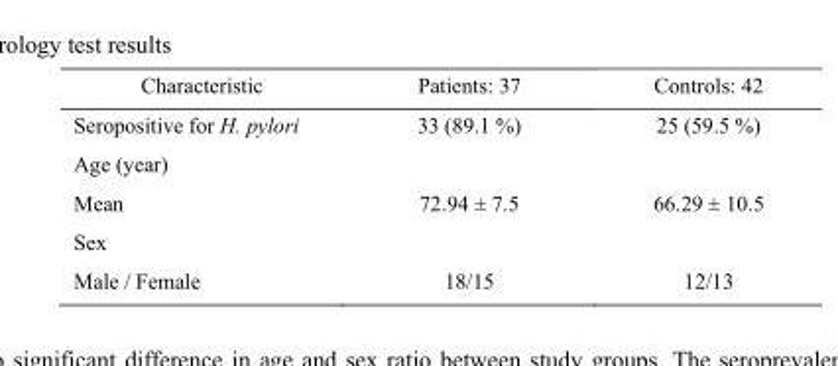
<table><thead><tr><td>Characteristic</td><td>Patients: 37</td><td>Controls: 42</td></tr></thead><tbody><tr><td>Seropositive for H. pylori</td><td>33 (89.1 %)</td><td>25 (59.5 %)</td></tr><tr><td colspan="3">Age (year)</td></tr><tr><td>Mean</td><td>72.94 ± 7.5</td><td>66.29 ± 10.5</td></tr><tr><td colspan="3">Sex</td></tr><tr><td>Male / Female</td><td>18/15</td><td>12/13</td></tr></tbody></table>